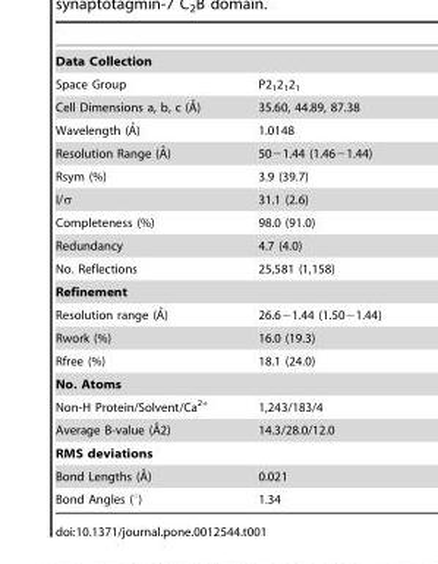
<table><tbody><tr><td colspan="2">Data Collection</td></tr><tr><td>Space Group</td><td>P2<sub>1</sub>2<sub>1</sub>2<sub>1</sub></td></tr><tr><td>Cell Dimensions a, b, c (A˚)</td><td>35.60, 44.89, 87.38</td></tr><tr><td>Wavelength (A˚)</td><td>1.0148</td></tr><tr><td>Resolution Range (A˚)</td><td>50−1.44 (1.46−1.44)</td></tr><tr><td>Rsym (%)</td><td>3.9 (39.7)</td></tr><tr><td>I/σ</td><td>31.1 (2.6)</td></tr><tr><td>Completeness (%)</td><td>98.0 (91.0)</td></tr><tr><td>Redundancy</td><td>4.7 (4.0)</td></tr><tr><td>No. Reflections</td><td>25,581 (1,158)</td></tr><tr><td colspan="2">Refinement</td></tr><tr><td>Resolution range (A˚)</td><td>26.6−1.44 (1.50−1.44)</td></tr><tr><td>Rwork (%)</td><td>16.0 (19.3)</td></tr><tr><td>Rfree (%)</td><td>18.1 (24.0)</td></tr><tr><td colspan="2">No. Atoms</td></tr><tr><td>Non-H Protein/Solvent/Ca<sup>2+</sup></td><td>1,243/183/4</td></tr><tr><td>Average B-value (A˚2)</td><td>14.3/28.0/12.0</td></tr><tr><td colspan="2">RMS deviations</td></tr><tr><td>Bond Lengths (A˚)</td><td>0.021</td></tr><tr><td>Bond Angles (°)</td><td>1.34</td></tr></tbody></table>